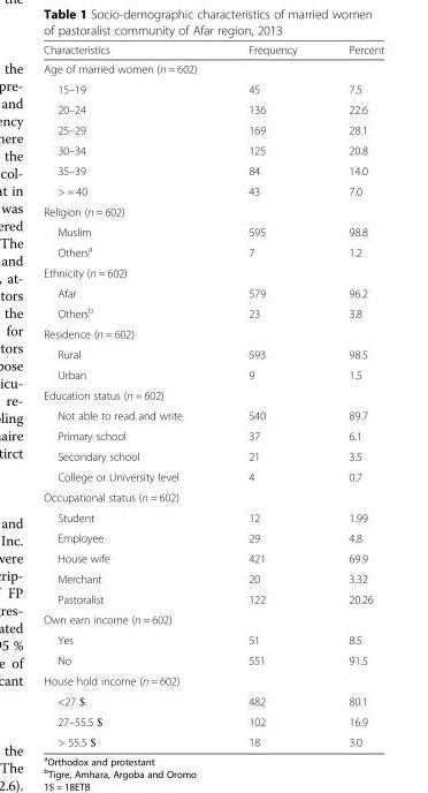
<table><thead><tr><td>Characteristics</td><td>Frequency</td><td>Percent</td></tr></thead><tbody><tr><td colspan="3">Age of married women (n = 602)</td></tr><tr><td>15–19</td><td>45</td><td>7.5</td></tr><tr><td>20–24</td><td>136</td><td>22.6</td></tr><tr><td>25–29</td><td>169</td><td>28.1</td></tr><tr><td>30–34</td><td>125</td><td>20.8</td></tr><tr><td>35–39</td><td>84</td><td>14.0</td></tr><tr><td>&gt; = 40</td><td>43</td><td>7.0</td></tr><tr><td colspan="3">Religion (n = 602)</td></tr><tr><td>Muslim</td><td>595</td><td>98.8</td></tr><tr><td>Others<sup>a</sup></td><td>7</td><td>1.2</td></tr><tr><td colspan="3">Ethnicity (n = 602)</td></tr><tr><td>Afar</td><td>579</td><td>96.2</td></tr><tr><td>Others<sup>b</sup></td><td>23</td><td>3.8</td></tr><tr><td colspan="3">Residence (n = 602)</td></tr><tr><td>Rural</td><td>593</td><td>98.5</td></tr><tr><td>Urban</td><td>9</td><td>1.5</td></tr><tr><td colspan="3">Education status (n = 602)</td></tr><tr><td>Not able to read and write</td><td>540</td><td>89.7</td></tr><tr><td>Primary school</td><td>37</td><td>6.1</td></tr><tr><td>Secondary school</td><td>21</td><td>3.5</td></tr><tr><td>College or University level</td><td>4</td><td>0.7</td></tr><tr><td colspan="3">Occupational status (n = 602)</td></tr><tr><td>Student</td><td>12</td><td>1.99</td></tr><tr><td>Employee</td><td>29</td><td>4.8</td></tr><tr><td>House wife</td><td>421</td><td>69.9</td></tr><tr><td>Merchant</td><td>20</td><td>3.32</td></tr><tr><td>Pastoralist</td><td>122</td><td>20.26</td></tr><tr><td colspan="3">Own earn income (n = 602)</td></tr><tr><td>Yes</td><td>51</td><td>8.5</td></tr><tr><td>No</td><td>551</td><td>91.5</td></tr><tr><td colspan="3">House hold income (n = 602)</td></tr><tr><td>&lt;27 $</td><td>482</td><td>80.1</td></tr><tr><td>27–55.5 $</td><td>102</td><td>16.9</td></tr><tr><td>&gt; 55.5 $</td><td>18</td><td>3.0</td></tr></tbody></table>